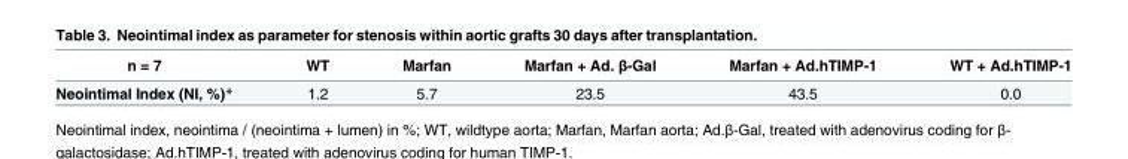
<table><thead><tr><td>n = 7</td><td>WT</td><td>Marfan</td><td>Marfan + Ad. β-Gal</td><td>Marfan + Ad.hTIMP-1</td><td>WT + Ad.hTIMP-1</td></tr></thead><tbody><tr><td>Neointimal Index (NI, %)*</td><td>1.2</td><td>5.7</td><td>23.5</td><td>43.5</td><td>0.0</td></tr></tbody></table>